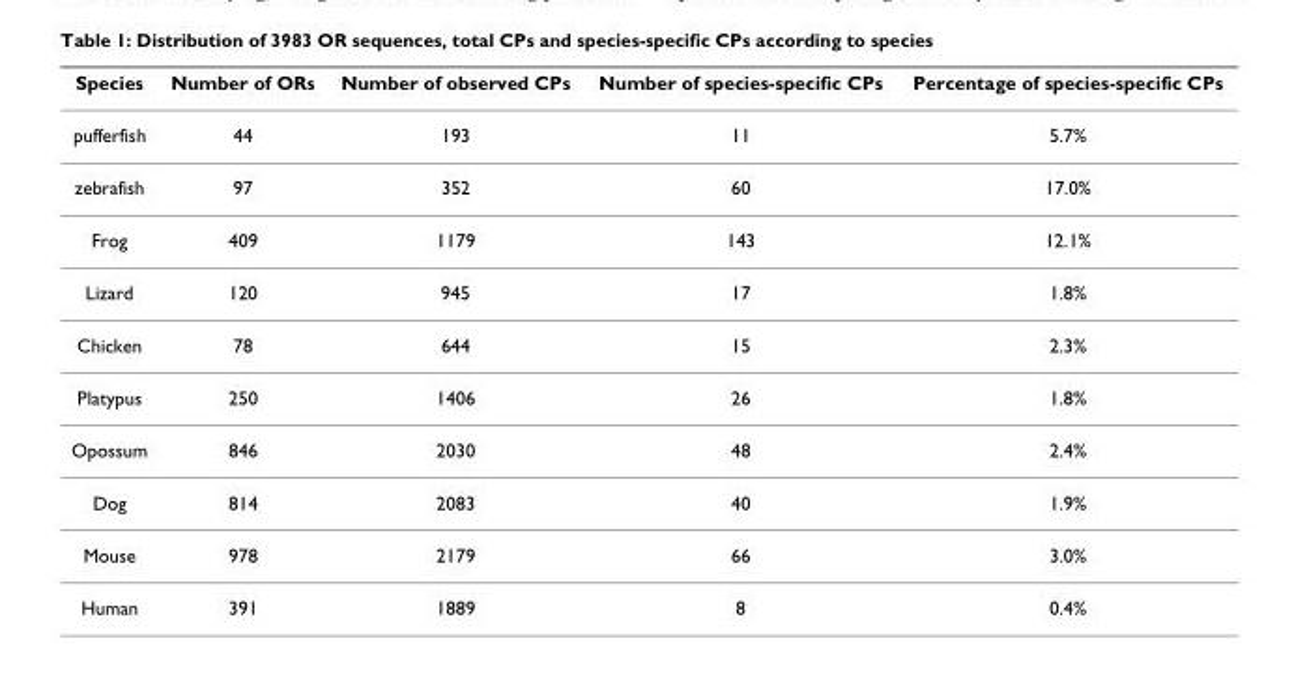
<table><thead><tr><td>Species</td><td>Number of ORs</td><td>Number of observed CPs</td><td>Number of species-specific CPs</td><td>Percentage of species-specific CPs</td></tr></thead><tbody><tr><td>pufferfish</td><td>44</td><td>193</td><td>11</td><td>5.7%</td></tr><tr><td>zebrafish</td><td>97</td><td>352</td><td>60</td><td>17.0%</td></tr><tr><td>Frog</td><td>409</td><td>1179</td><td>143</td><td>12.1%</td></tr><tr><td>Lizard</td><td>120</td><td>945</td><td>17</td><td>1.8%</td></tr><tr><td>Chicken</td><td>78</td><td>644</td><td>15</td><td>2.3%</td></tr><tr><td>Platypus</td><td>250</td><td>1406</td><td>26</td><td>1.8%</td></tr><tr><td>Opossum</td><td>846</td><td>2030</td><td>48</td><td>2.4%</td></tr><tr><td>Dog</td><td>814</td><td>2083</td><td>40</td><td>1.9%</td></tr><tr><td>Mouse</td><td>978</td><td>2179</td><td>66</td><td>3.0%</td></tr><tr><td>Human</td><td>391</td><td>1889</td><td>8</td><td>0.4%</td></tr></tbody></table>